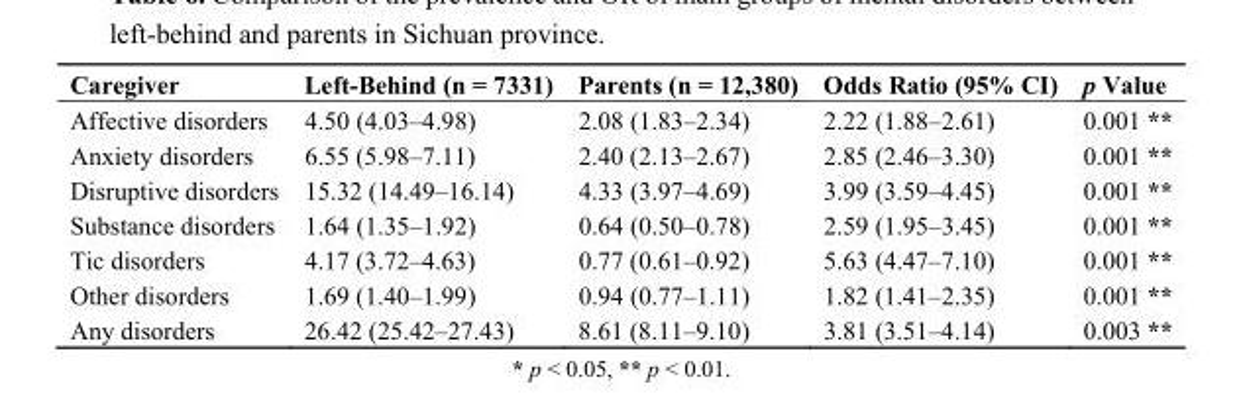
<table><thead><tr><td>Caregiver</td><td>Left-Behind (n = 7331)</td><td>Parents (n = 12,380)</td><td>Odds Ratio (95% CI)</td><td>p Value</td></tr></thead><tbody><tr><td>Affective disorders</td><td>4.50 (4.03–4.98)</td><td>2.08 (1.83–2.34)</td><td>2.22 (1.88–2.61)</td><td>0.001 **</td></tr><tr><td>Anxiety disorders</td><td>6.55 (5.98–7.11)</td><td>2.40 (2.13–2.67)</td><td>2.85 (2.46–3.30)</td><td>0.001 **</td></tr><tr><td>Disruptive disorders</td><td>15.32 (14.49–16.14)</td><td>4.33 (3.97–4.69)</td><td>3.99 (3.59–4.45)</td><td>0.001 **</td></tr><tr><td>Substance disorders</td><td>1.64 (1.35–1.92)</td><td>0.64 (0.50–0.78)</td><td>2.59 (1.95–3.45)</td><td>0.001 **</td></tr><tr><td>Tic disorders</td><td>4.17 (3.72–4.63)</td><td>0.77 (0.61–0.92)</td><td>5.63 (4.47–7.10)</td><td>0.001 **</td></tr><tr><td>Other disorders</td><td>1.69 (1.40–1.99)</td><td>0.94 (0.77–1.11)</td><td>1.82 (1.41–2.35)</td><td>0.001 **</td></tr><tr><td>Any disorders</td><td>26.42 (25.42–27.43)</td><td>8.61 (8.11–9.10)</td><td>3.81 (3.51–4.14)</td><td>0.003 **</td></tr></tbody></table>